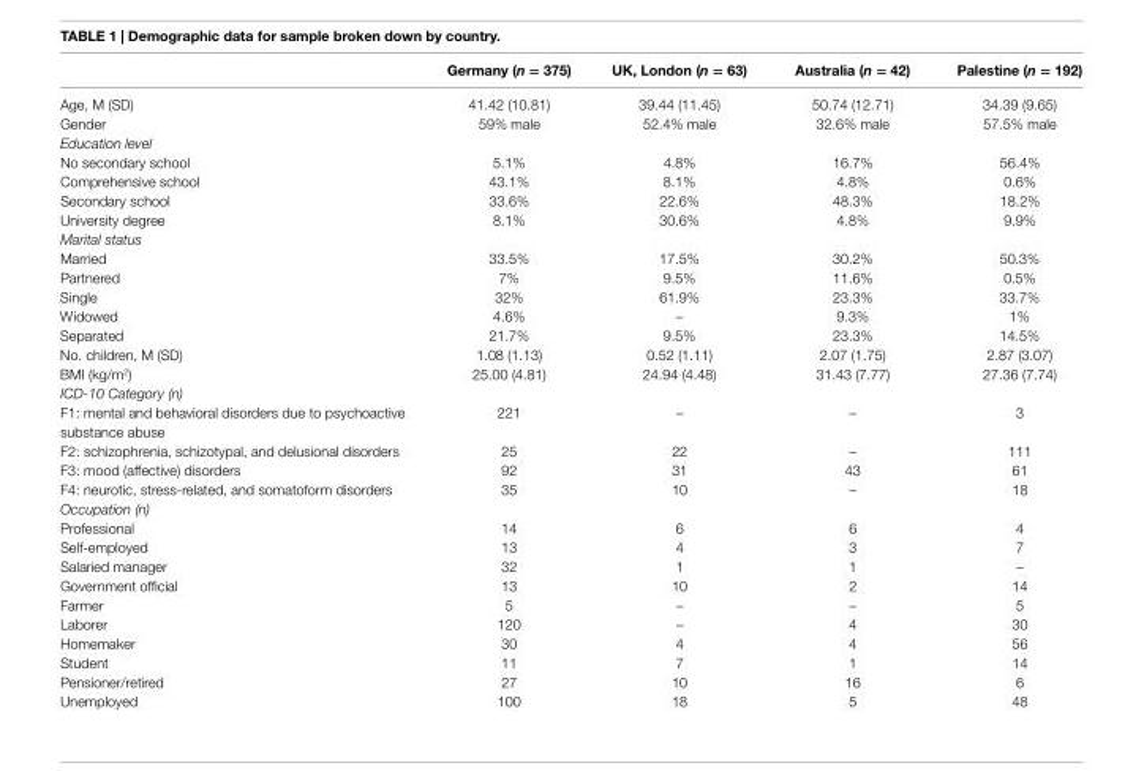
<table><thead><tr><td></td><td>germany (n = 375)</td><td>UK, london (n = 63)</td><td>australia (n = 42)</td><td>Palestine (n = 192)</td></tr></thead><tbody><tr><td>Age, M (SD)</td><td>41.42 (10.81)</td><td>39.44 (11.45)</td><td>50.74 (12.71)</td><td>34.39 (9.65)</td></tr><tr><td>Gender</td><td>59% male</td><td>52.4% male</td><td>32.6% male</td><td>57.5% male</td></tr><tr><td colspan="5">Education level</td></tr><tr><td>No secondary school</td><td>5.1%</td><td>4.8%</td><td>16.7%</td><td>56.4%</td></tr><tr><td>Comprehensive school</td><td>43.1%</td><td>8.1%</td><td>4.8%</td><td>0.6%</td></tr><tr><td>Secondary school</td><td>33.6%</td><td>22.6%</td><td>48.3%</td><td>18.2%</td></tr><tr><td>University degree</td><td>8.1%</td><td>30.6%</td><td>4.8%</td><td>9.9%</td></tr><tr><td colspan="5">Marital status</td></tr><tr><td>Married</td><td>33.5%</td><td>17.5%</td><td>30.2%</td><td>50.3%</td></tr><tr><td>Partnered</td><td>7%</td><td>9.5%</td><td>11.6%</td><td>0.5%</td></tr><tr><td>Single</td><td>32%</td><td>61.9%</td><td>23.3%</td><td>33.7%</td></tr><tr><td>Widowed</td><td>4.6%</td><td>–</td><td>9.3%</td><td>1%</td></tr><tr><td>Separated</td><td>21.7%</td><td>9.5%</td><td>23.3%</td><td>14.5%</td></tr><tr><td>No. children, M (SD)</td><td>1.08 (1.13)</td><td>0.52 (1.11)</td><td>2.07 (1.75)</td><td>2.87 (3.07)</td></tr><tr><td>BMI (kg/m<sup>2</sup>)</td><td>25.00 (4.81)</td><td>24.94 (4.48)</td><td>31.43 (7.77)</td><td>27.36 (7.74)</td></tr><tr><td colspan="5">ICD-10 Category (n)</td></tr><tr><td>F1: mental and behavioral disorders due to psychoactive substance abuse</td><td>221</td><td>–</td><td>–</td><td>3</td></tr><tr><td>F2: schizophrenia, schizotypal, and delusional disorders</td><td>25</td><td>22</td><td>–</td><td>111</td></tr><tr><td>F3: mood (affective) disorders</td><td>92</td><td>31</td><td>43</td><td>61</td></tr><tr><td>F4: neurotic, stress-related, and somatoform disorders</td><td>35</td><td>10</td><td>–</td><td>18</td></tr><tr><td colspan="5">Occupation (n)</td></tr><tr><td>Professional</td><td>14</td><td>6</td><td>6</td><td>4</td></tr><tr><td>Self-employed</td><td>13</td><td>4</td><td>3</td><td>7</td></tr><tr><td>Salaried manager</td><td>32</td><td>1</td><td>1</td><td>–</td></tr><tr><td>Government official</td><td>13</td><td>10</td><td>2</td><td>14</td></tr><tr><td>Farmer</td><td>5</td><td>–</td><td>–</td><td>5</td></tr><tr><td>Laborer</td><td>120</td><td>–</td><td>4</td><td>30</td></tr><tr><td>Homemaker</td><td>30</td><td>4</td><td>4</td><td>56</td></tr><tr><td>Student</td><td>11</td><td>7</td><td>1</td><td>14</td></tr><tr><td>Pensioner/retired</td><td>27</td><td>10</td><td>16</td><td>6</td></tr><tr><td>Unemployed</td><td>100</td><td>18</td><td>5</td><td>48</td></tr></tbody></table>